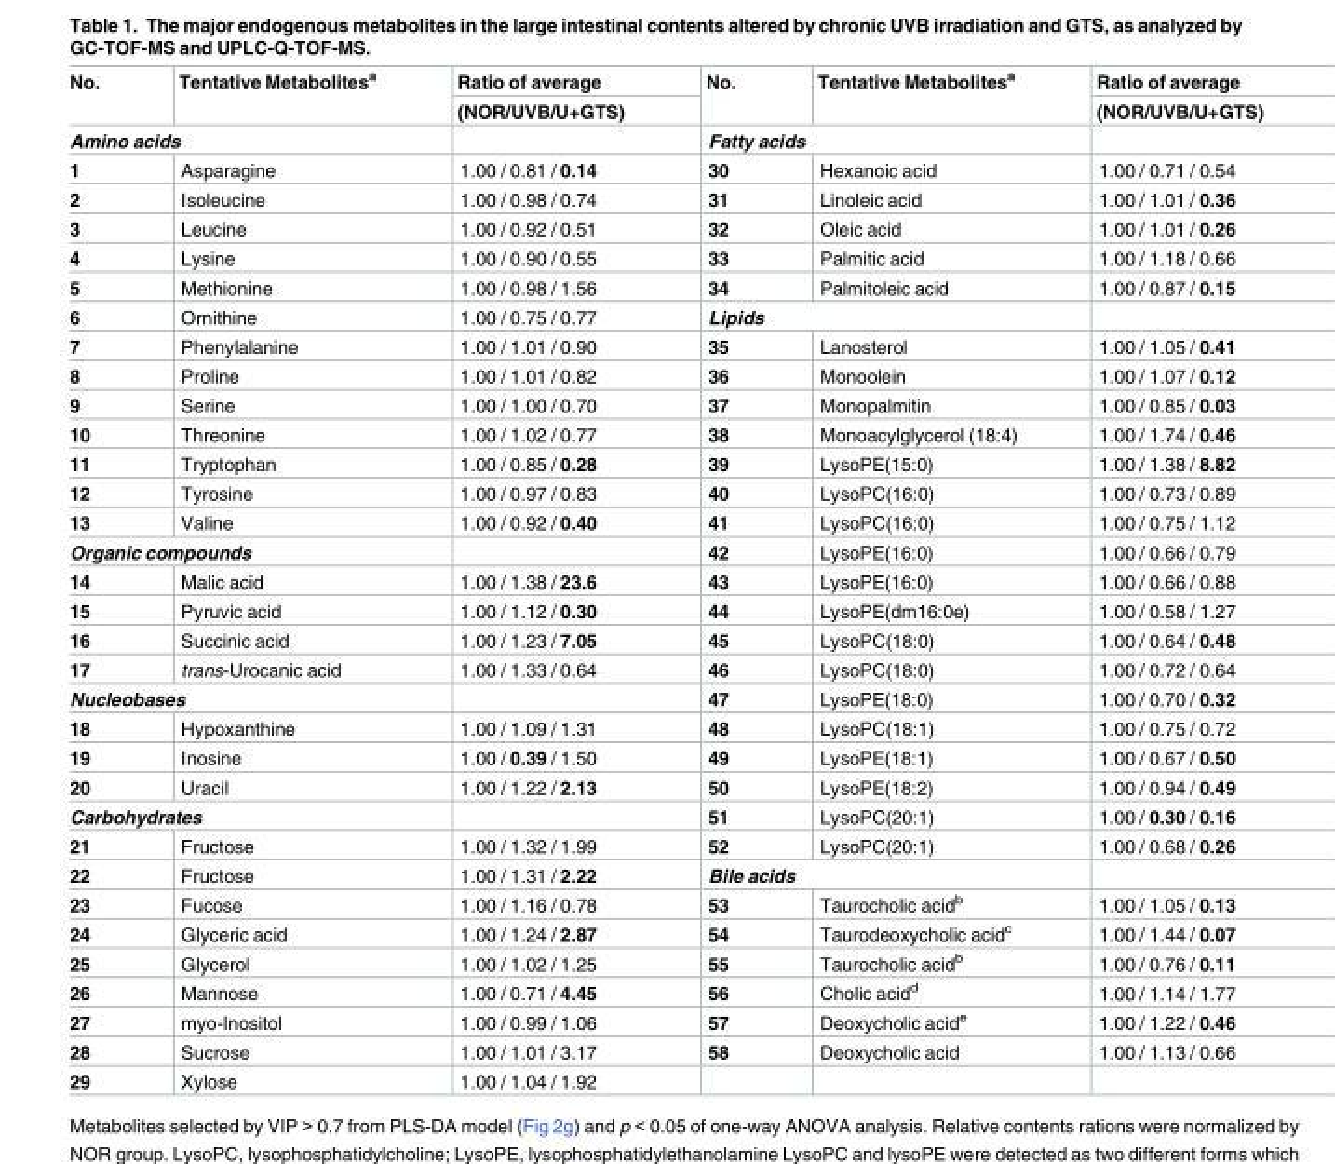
<table><thead><tr><td rowspan="2">No.</td><td rowspan="2">Tentative Metabolites<sup>a</sup></td><td rowspan="2">Ratio of average (NOR/UVB/U+GTS)</td><td rowspan="2">No.</td><td rowspan="2">Tentative Metabolites<sup>a</sup></td><td rowspan="2">Ratio of average (NOR/UVB/U+GTS)</td></tr><tr></tr></thead><tbody><tr><td colspan="2">Amino acids</td><td></td><td colspan="2">Fatty acids</td><td></td></tr><tr><td>1</td><td>Asparagine</td><td>1.00 / 0.81 / 0.14</td><td>30</td><td>Hexanoic acid</td><td>1.00 / 0.71 / 0.54</td></tr><tr><td>2</td><td>Isoleucine</td><td>1.00 / 0.98 / 0.74</td><td>31</td><td>Linoleic acid</td><td>1.00 / 1.01 / 0.36</td></tr><tr><td>3</td><td>Leucine</td><td>1.00 / 0.92 / 0.51</td><td>32</td><td>Oleic acid</td><td>1.00 / 1.01 / 0.26</td></tr><tr><td>4</td><td>Lysine</td><td>1.00 / 0.90 / 0.55</td><td>33</td><td>Palmitic acid</td><td>1.00 / 1.18 / 0.66</td></tr><tr><td>5</td><td>Methionine</td><td>1.00 / 0.98 / 1.56</td><td>34</td><td>Palmitoleic acid</td><td>1.00 / 0.87 / 0.15</td></tr><tr><td>6</td><td>Ornithine</td><td>1.00 / 0.75 / 0.77</td><td colspan="2">Lipids</td><td></td></tr><tr><td>7</td><td>Phenylalanine</td><td>1.00 / 1.01 / 0.90</td><td>35</td><td>Lanosterol</td><td>1.00 / 1.05 / 0.41</td></tr><tr><td>8</td><td>Proline</td><td>1.00 / 1.01 / 0.82</td><td>36</td><td>Monoolein</td><td>1.00 / 1.07 / 0.12</td></tr><tr><td>9</td><td>Serine</td><td>1.00 / 1.00 / 0.70</td><td>37</td><td>Monopalmitin</td><td>1.00 / 0.85 / 0.03</td></tr><tr><td>10</td><td>Threonine</td><td>1.00 / 1.02 / 0.77</td><td>38</td><td>Monoacylglycerol (18:4)</td><td>1.00 / 1.74 / 0.46</td></tr><tr><td>11</td><td>Tryptophan</td><td>1.00 / 0.85 / 0.28</td><td>39</td><td>LysoPE(15:0)</td><td>1.00 / 1.38 / 8.82</td></tr><tr><td>12</td><td>Tyrosine</td><td>1.00 / 0.97 / 0.83</td><td>40</td><td>LysoPC(16:0)</td><td>1.00 / 0.73 / 0.89</td></tr><tr><td>13</td><td>Valine</td><td>1.00 / 0.92 / 0.40</td><td>41</td><td>LysoPC(16:0)</td><td>1.00 / 0.75 / 1.12</td></tr><tr><td colspan="2">Organic compounds</td><td></td><td>42</td><td>LysoPE(16:0)</td><td>1.00 / 0.66 / 0.79</td></tr><tr><td>14</td><td>Malic acid</td><td>1.00 / 1.38 / 23.6</td><td>43</td><td>LysoPE(16:0)</td><td>1.00 / 0.66 / 0.88</td></tr><tr><td>15</td><td>Pyruvic acid</td><td>1.00 / 1.12 / 0.30</td><td>44</td><td>LysoPE(dm16:0e)</td><td>1.00 / 0.58 / 1.27</td></tr><tr><td>16</td><td>Succinic acid</td><td>1.00 / 1.23 / 7.05</td><td>45</td><td>LysoPC(18:0)</td><td>1.00 / 0.64 / 0.48</td></tr><tr><td>17</td><td>trans-Urocanic acid</td><td>1.00 / 1.33 / 0.64</td><td>46</td><td>LysoPC(18:0)</td><td>1.00 / 0.72 / 0.64</td></tr><tr><td colspan="2">Nucleobases</td><td></td><td>47</td><td>LysoPE(18:0)</td><td>1.00 / 0.70 / 0.32</td></tr><tr><td>18</td><td>Hypoxanthine</td><td>1.00 / 1.09 / 1.31</td><td>48</td><td>LysoPC(18:1)</td><td>1.00 / 0.75 / 0.72</td></tr><tr><td>19</td><td>Inosine</td><td>1.00 / 0.39 / 1.50</td><td>49</td><td>LysoPE(18:1)</td><td>1.00 / 0.67 / 0.50</td></tr><tr><td>20</td><td>Uracil</td><td>1.00 / 1.22 / 2.13</td><td>50</td><td>LysoPE(18:2)</td><td>1.00 / 0.94 / 0.49</td></tr><tr><td colspan="2">Carbohydrates</td><td></td><td>51</td><td>LysoPC(20:1)</td><td>1.00 / 0.30 / 0.16</td></tr><tr><td>21</td><td>Fructose</td><td>1.00 / 1.32 / 1.99</td><td>52</td><td>LysoPC(20:1)</td><td>1.00 / 0.68 / 0.26</td></tr><tr><td>22</td><td>Fructose</td><td>1.00 / 1.31 / 2.22</td><td colspan="2">Bile acids</td><td></td></tr><tr><td>23</td><td>Fucose</td><td>1.00 / 1.16 / 0.78</td><td>53</td><td>Taurocholic acid<sup>b</sup></td><td>1.00 / 1.05 / 0.13</td></tr><tr><td>24</td><td>Glyceric acid</td><td>1.00 / 1.24 / 2.87</td><td>54</td><td>Taurodeoxycholic acid<sup>c</sup></td><td>1.00 / 1.44 / 0.07</td></tr><tr><td>25</td><td>Glycerol</td><td>1.00 / 1.02 / 1.25</td><td>55</td><td>Taurocholic acid<sup>b</sup></td><td>1.00 / 0.76 / 0.11</td></tr><tr><td>26</td><td>Mannose</td><td>1.00 / 0.71 / 4.45</td><td>56</td><td>Cholic acid<sup>d</sup></td><td>1.00 / 1.14 / 1.77</td></tr><tr><td>27</td><td>myo-Inositol</td><td>1.00 / 0.99 / 1.06</td><td>57</td><td>Deoxycholic acid<sup>e</sup></td><td>1.00 / 1.22 / 0.46</td></tr><tr><td>28</td><td>Sucrose</td><td>1.00 / 1.01 / 3.17</td><td>58</td><td>Deoxycholic acid</td><td>1.00 / 1.13 / 0.66</td></tr><tr><td>29</td><td>Xylose</td><td>1.00 / 1.04 / 1.92</td><td></td><td></td><td></td></tr></tbody></table>